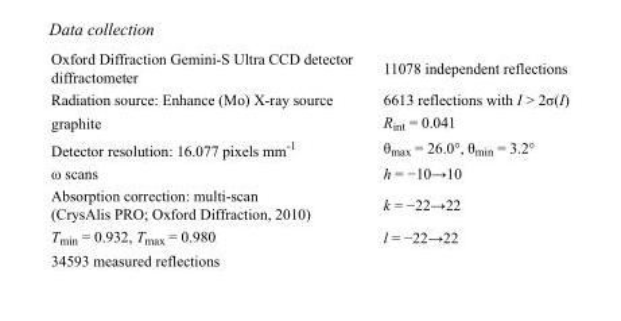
<table><tbody><tr><td>Oxford Diffraction Gemini-S Ultra CCD detector diffractometer</td><td>11078 independent reflections</td></tr><tr><td>Radiation source: Enhance (Mo) X-ray source</td><td>6613 reflections with I &gt; 2σ(I)</td></tr><tr><td>graphite</td><td>R<sub>int</sub> = 0.041</td></tr><tr><td>Detector resolution: 16.077 pixels mm<sup>-1</sup></td><td>θ<sub>max</sub> = 26.0°, θ<sub>min</sub> = 3.2°</td></tr><tr><td>ω scans</td><td>h = −10→10</td></tr><tr><td>Absorption correction: multi-scan (CrysAlis PRO; Oxford Diffraction, 2010)</td><td>k = −22→22</td></tr><tr><td>T<sub>min</sub> = 0.932, T<sub>max</sub> = 0.980</td><td>l = −22→22</td></tr><tr><td>34593 measured reflections</td><td></td></tr></tbody></table>